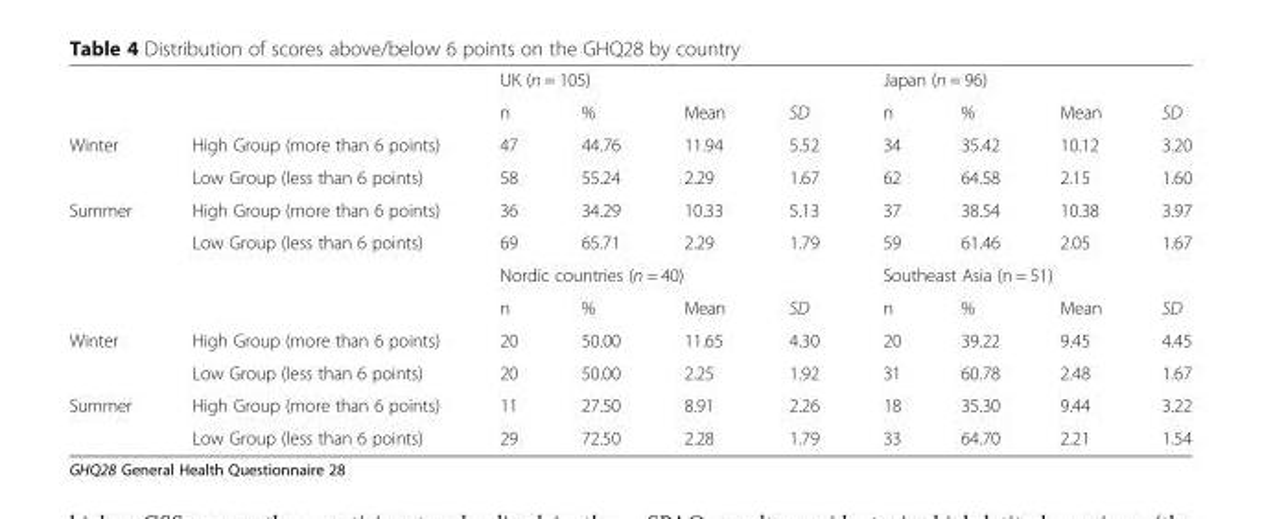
<table><thead><tr><td rowspan="2"></td><td rowspan="2"></td><td colspan="4">UK (n = 105)</td><td colspan="4">Japan (n = 96)</td></tr><tr><td>n</td><td>%</td><td>Mean</td><td>SD</td><td>n</td><td>%</td><td>Mean</td><td>SD</td></tr></thead><tbody><tr><td rowspan="2">Winter</td><td>High Group (more than 6 points)</td><td>47</td><td>44.76</td><td>11.94</td><td>5.52</td><td>34</td><td>35.42</td><td>10.12</td><td>3.20</td></tr><tr><td>Low Group (less than 6 points)</td><td>58</td><td>55.24</td><td>2.29</td><td>1.67</td><td>62</td><td>64.58</td><td>2.15</td><td>1.60</td></tr><tr><td rowspan="2">Summer</td><td>High Group (more than 6 points)</td><td>36</td><td>34.29</td><td>10.33</td><td>5.13</td><td>37</td><td>38.54</td><td>10.38</td><td>3.97</td></tr><tr><td>Low Group (less than 6 points)</td><td>69</td><td>65.71</td><td>2.29</td><td>1.79</td><td>59</td><td>61.46</td><td>2.05</td><td>1.67</td></tr><tr><td rowspan="2" colspan="2"></td><td colspan="4">Nordic countries (n = 40)</td><td colspan="4">Southeast Asia (n = 51)</td></tr><tr><td>n</td><td>%</td><td>Mean</td><td>SD</td><td>n</td><td>%</td><td>Mean</td><td>SD</td></tr><tr><td rowspan="2">Winter</td><td>High Group (more than 6 points)</td><td>20</td><td>50.00</td><td>11.65</td><td>4.30</td><td>20</td><td>39.22</td><td>9.45</td><td>4.45</td></tr><tr><td>Low Group (less than 6 points)</td><td>20</td><td>50.00</td><td>2.25</td><td>1.92</td><td>31</td><td>60.78</td><td>2.48</td><td>1.67</td></tr><tr><td rowspan="2">Summer</td><td>High Group (more than 6 points)</td><td>11</td><td>27.50</td><td>8.91</td><td>2.26</td><td>18</td><td>35.30</td><td>9.44</td><td>3.22</td></tr><tr><td>Low Group (less than 6 points)</td><td>29</td><td>72.50</td><td>2.28</td><td>1.79</td><td>33</td><td>64.70</td><td>2.21</td><td>1.54</td></tr></tbody></table>